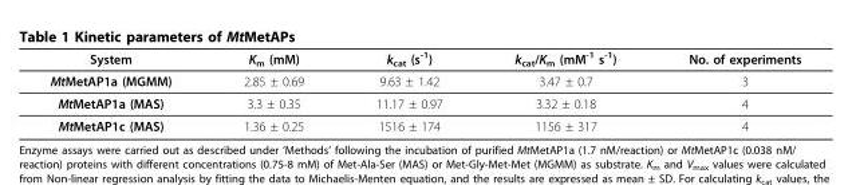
<table><thead><tr><td>System</td><td>K<sub>m</sub> (mM)</td><td>k<sub>cat</sub> (s<sup>-1</sup>)</td><td>k<sub>cat</sub>/K<sub>m</sub> (mM<sup>-1</sup> s<sup>-1</sup>)</td><td>No. of experiments</td></tr></thead><tbody><tr><td>MtMetAP1a (MGMM)</td><td>2.85 ± 0.69</td><td>9.63 ± 1.42</td><td>3.47 ± 0.7</td><td>3</td></tr><tr><td>MtMetAP1a (MAS)</td><td>3.3 ± 0.35</td><td>11.17 ± 0.97</td><td>3.32 ± 0.18</td><td>4</td></tr><tr><td>MtMetAP1c (MAS)</td><td>1.36 ± 0.25</td><td>1516 ± 174</td><td>1156 ± 317</td><td>4</td></tr></tbody></table>